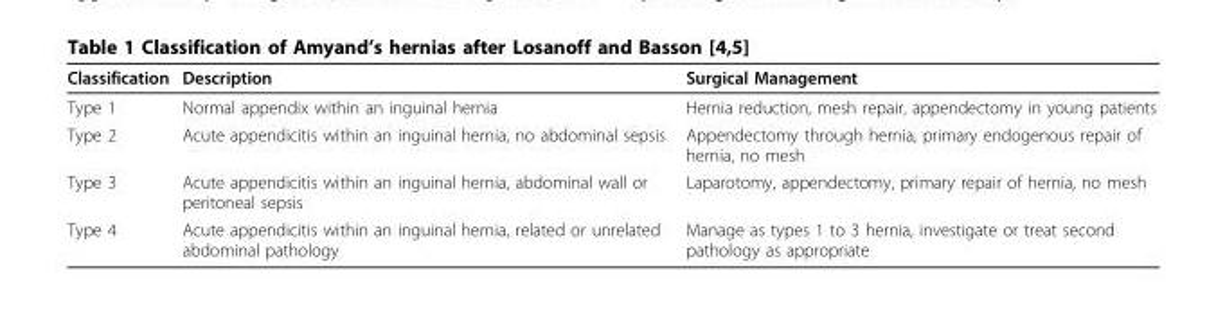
<table><thead><tr><td>Classification</td><td>Description</td><td>Surgical Management</td></tr></thead><tbody><tr><td>Type 1</td><td>Normal appendix within an inguinal hernia</td><td>Hernia reduction, mesh repair, appendectomy in young patients</td></tr><tr><td>Type 2</td><td>Acute appendicitis within an inguinal hernia, no abdominal sepsis</td><td>Appendectomy through hernia, primary endogenous repair of hernia, no mesh</td></tr><tr><td>Type 3</td><td>Acute appendicitis within an inguinal hernia, abdominal wall or peritoneal sepsis</td><td>Laparotomy, appendectomy, primary repair of hernia, no mesh</td></tr><tr><td>Type 4</td><td>Acute appendicitis within an inguinal hernia, related or unrelated abdominal pathology</td><td>Manage as types 1 to 3 hernia, investigate or treat second pathology as appropriate</td></tr></tbody></table>